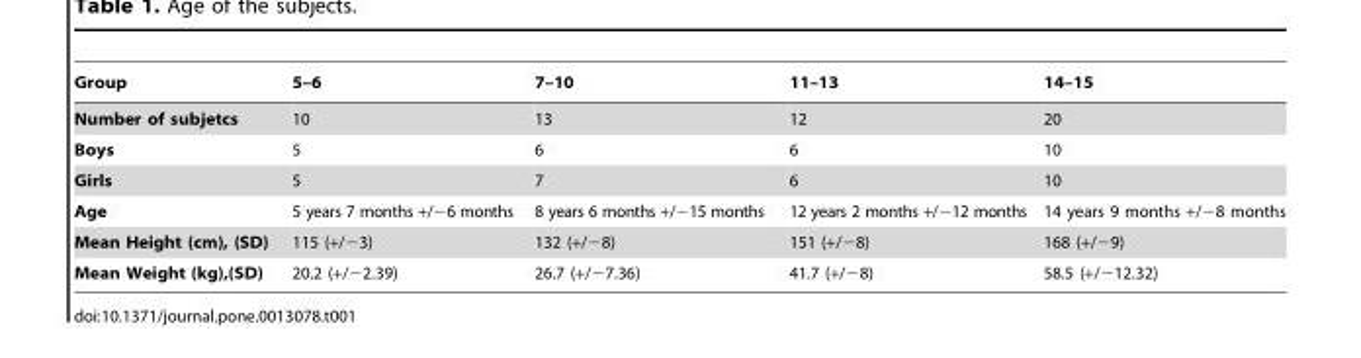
<table><thead><tr><td>Group</td><td>5–6</td><td>7–10</td><td>11–13</td><td>14–15</td></tr></thead><tbody><tr><td>Number of subjetcs</td><td>10</td><td>13</td><td>12</td><td>20</td></tr><tr><td>Boys</td><td>5</td><td>6</td><td>6</td><td>10</td></tr><tr><td>Girls</td><td>5</td><td>7</td><td>6</td><td>10</td></tr><tr><td>Age</td><td>5 years 7 months +/−6 months</td><td>8 years 6 months +/−15 months</td><td>12 years 2 months +/−12 months</td><td>14 years 9 months +/−8 months</td></tr><tr><td>Mean Height (cm), (SD)</td><td>115 (+/−3)</td><td>132 (+/−8)</td><td>151 (+/−8)</td><td>168 (+/−9)</td></tr><tr><td>Mean Weight (kg),(SD)</td><td>20.2 (+/−2.39)</td><td>26.7 (+/−7.36)</td><td>41.7 (+/−8)</td><td>58.5 (+/−12.32)</td></tr></tbody></table>